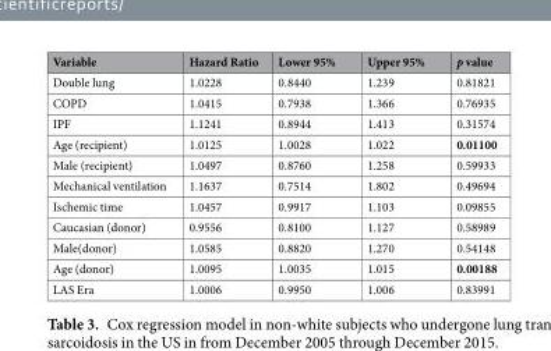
<table><thead><tr><td>Variable</td><td>Hazard Ratio</td><td>Lower 95%</td><td>Upper 95%</td><td>p value</td></tr></thead><tbody><tr><td>Double lung</td><td>1.0228</td><td>0.8440</td><td>1.239</td><td>0.81821</td></tr><tr><td>COPD</td><td>1.0415</td><td>0.7938</td><td>1.366</td><td>0.76935</td></tr><tr><td>IPF</td><td>1.1241</td><td>0.8944</td><td>1.413</td><td>0.31574</td></tr><tr><td>Age (recipient)</td><td>1.0125</td><td>1.0028</td><td>1.022</td><td>0.01100</td></tr><tr><td>Male (recipient)</td><td>1.0497</td><td>0.8760</td><td>1.258</td><td>0.59933</td></tr><tr><td>Mechanical ventilation</td><td>1.1637</td><td>0.7514</td><td>1.802</td><td>0.49694</td></tr><tr><td>Ischemic time</td><td>1.0457</td><td>0.9917</td><td>1.103</td><td>0.09855</td></tr><tr><td>Caucasian (donor)</td><td>0.9556</td><td>0.8100</td><td>1.127</td><td>0.58989</td></tr><tr><td>Male(donor)</td><td>1.0585</td><td>0.8820</td><td>1.270</td><td>0.54148</td></tr><tr><td>Age (donor)</td><td>1.0095</td><td>1.0035</td><td>1.015</td><td>0.00188</td></tr><tr><td>LAS Era</td><td>1.0006</td><td>0.9950</td><td>1.006</td><td>0.83991</td></tr></tbody></table>